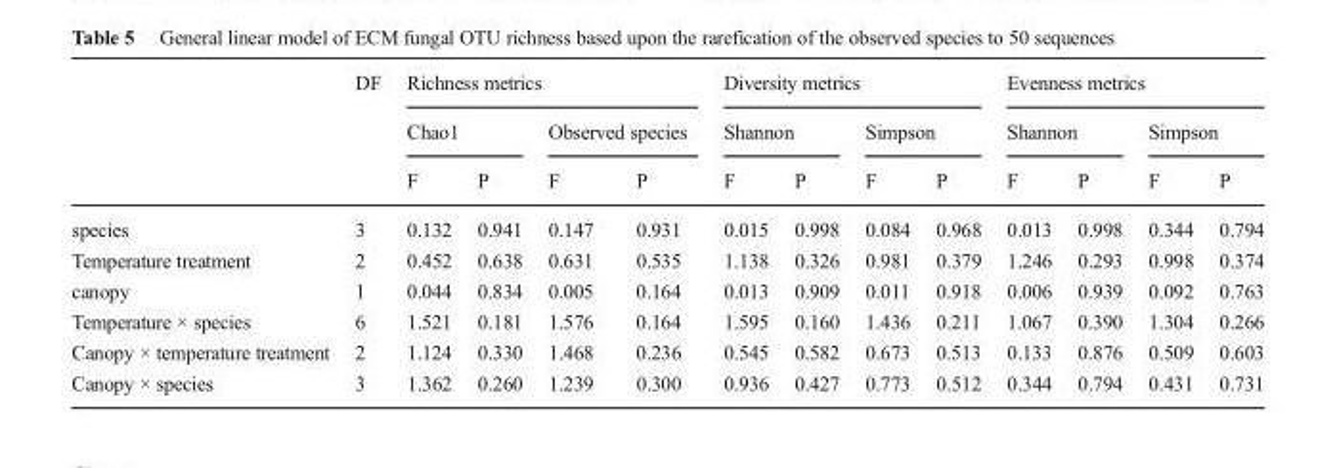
<table><thead><tr><td rowspan="3"></td><td rowspan="3">DF</td><td colspan="4">Richness metrics</td><td colspan="4">Diversity metrics</td><td colspan="4">Evenness metrics</td></tr><tr><td colspan="2">Chao1</td><td colspan="2">Observed species</td><td colspan="2">Shannon</td><td colspan="2">Simpson</td><td colspan="2">Shannon</td><td colspan="2">Simpson</td></tr><tr><td>F</td><td>P</td><td>F</td><td>P</td><td>F</td><td>P</td><td>F</td><td>P</td><td>F</td><td>P</td><td>F</td><td>P</td></tr></thead><tbody><tr><td>species</td><td>3</td><td>0.132</td><td>0.941</td><td>0.147</td><td>0.931</td><td>0.015</td><td>0.998</td><td>0.084</td><td>0.968</td><td>0.013</td><td>0.998</td><td>0.344</td><td>0.794</td></tr><tr><td>Temperature treatment</td><td>2</td><td>0.452</td><td>0.638</td><td>0.631</td><td>0.535</td><td>1.138</td><td>0.326</td><td>0.981</td><td>0.379</td><td>1.246</td><td>0.293</td><td>0.998</td><td>0.374</td></tr><tr><td>canopy</td><td>1</td><td>0.044</td><td>0.834</td><td>0.005</td><td>0.164</td><td>0.013</td><td>0.909</td><td>0.011</td><td>0.918</td><td>0.006</td><td>0.939</td><td>0.092</td><td>0.763</td></tr><tr><td>Temperature × species</td><td>6</td><td>1.521</td><td>0.181</td><td>1.576</td><td>0.164</td><td>1.595</td><td>0.160</td><td>1.436</td><td>0.211</td><td>1.067</td><td>0.390</td><td>1.304</td><td>0.266</td></tr><tr><td>Canopy × temperature treatment</td><td>2</td><td>1.124</td><td>0.330</td><td>1.468</td><td>0.236</td><td>0.545</td><td>0.582</td><td>0.673</td><td>0.513</td><td>0.133</td><td>0.876</td><td>0.509</td><td>0.603</td></tr><tr><td>Canopy × species</td><td>3</td><td>1.362</td><td>0.260</td><td>1.239</td><td>0.300</td><td>0.936</td><td>0.427</td><td>0.773</td><td>0.512</td><td>0.344</td><td>0.794</td><td>0.431</td><td>0.731</td></tr></tbody></table>